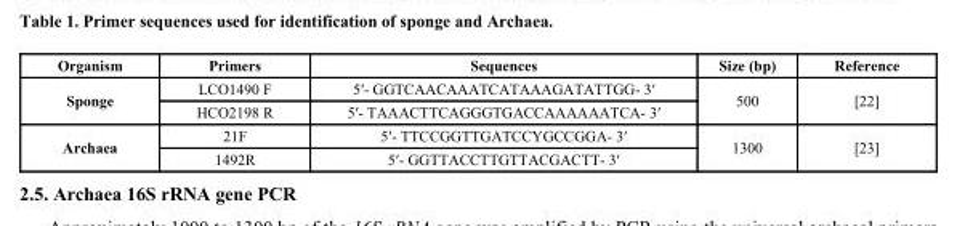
<table><thead><tr><td>Organism</td><td>Primers</td><td>Sequences</td><td>Size (bp)</td><td>Reference</td></tr></thead><tbody><tr><td rowspan="2">Sponge</td><td>LCO1490 F</td><td>5′- GGTCAACAAATCATAAAGATATTGG- 3′</td><td rowspan="2">500</td><td rowspan="2">[22]</td></tr><tr><td>HCO2198 R</td><td>5′- TAAACTTCAGGGTGACCAAAAAATCA- 3′</td></tr><tr><td rowspan="2">Archaea</td><td>21F</td><td>5′- TTCCGGTTGATCCYGCCGGA- 3′</td><td rowspan="2">1300</td><td rowspan="2">[23]</td></tr><tr><td>1492R</td><td>5′- GGTTACCTTGTTACGACTT- 3′</td></tr></tbody></table>